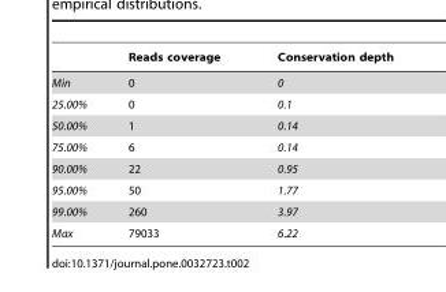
<table><thead><tr><td></td><td>Reads coverage</td><td>Conservation depth</td></tr></thead><tbody><tr><td>Min</td><td>0</td><td>0</td></tr><tr><td>25.00%</td><td>0</td><td>0.1</td></tr><tr><td>50.00%</td><td>1</td><td>0.14</td></tr><tr><td>75.00%</td><td>6</td><td>0.14</td></tr><tr><td>90.00%</td><td>22</td><td>0.95</td></tr><tr><td>95.00%</td><td>50</td><td>1.77</td></tr><tr><td>99.00%</td><td>260</td><td>3.97</td></tr><tr><td>Max</td><td>79033</td><td>6.22</td></tr></tbody></table>